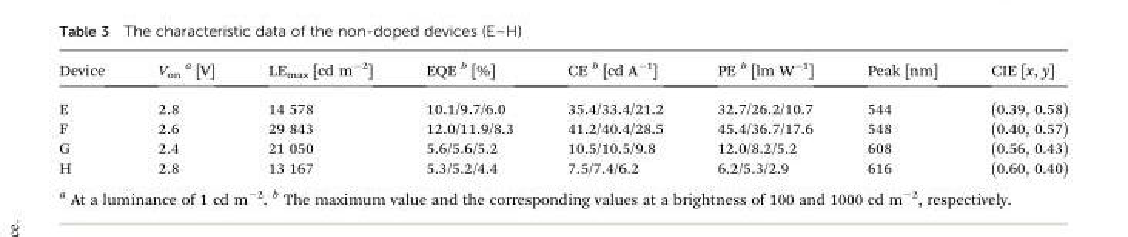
<table><thead><tr><td>Device</td><td>V<sub>on</sub> <sup>a</sup> [V]</td><td>LE<sub>max</sub> [cd m<sup>–2</sup>]</td><td>EQE <sup>b</sup> [%]</td><td>CE <sup>b</sup> [cd A<sup>–1</sup>]</td><td>PE <sup>b</sup> [lm W<sup>–1</sup>]</td><td>Peak [nm]</td><td>CIE [x, y]</td></tr></thead><tbody><tr><td>E</td><td>2.8</td><td>14 578</td><td>10.1/9.7/6.0</td><td>35.4/33.4/21.2</td><td>32.7/26.2/10.7</td><td>544</td><td>(0.39, 0.58)</td></tr><tr><td>F</td><td>2.6</td><td>29 843</td><td>12.0/11.9/8.3</td><td>41.2/40.4/28.5</td><td>45.4/36.7/17.6</td><td>548</td><td>(0.40, 0.57)</td></tr><tr><td>G</td><td>2.4</td><td>21 050</td><td>5.6/5.6/5.2</td><td>10.5/10.5/9.8</td><td>12.0/8.2/5.2</td><td>608</td><td>(0.56, 0.43)</td></tr><tr><td>H</td><td>2.8</td><td>13 167</td><td>5.3/5.2/4.4</td><td>7.5/7.4/6.2</td><td>6.2/5.3/2.9</td><td>616</td><td>(0.60, 0.40)</td></tr></tbody></table>